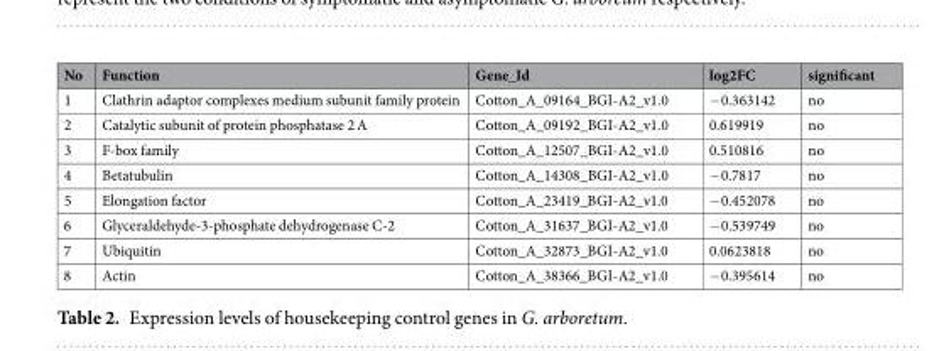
<table><thead><tr><td>No</td><td>Function</td><td>Gene_Id</td><td>log2FC</td><td>significant</td></tr></thead><tbody><tr><td>1</td><td>Clathrin adaptor complexes medium subunit family protein</td><td>Cotton_A_09164_BGI-A2_v1.0</td><td>−0.363142</td><td>no</td></tr><tr><td>2</td><td>Catalytic subunit of protein phosphatase 2 A</td><td>Cotton_A_09192_BGI-A2_v1.0</td><td>0.619919</td><td>no</td></tr><tr><td>3</td><td>F-box family</td><td>Cotton_A_12507_BGI-A2_v1.0</td><td>0.510816</td><td>no</td></tr><tr><td>4</td><td>Betatubulin</td><td>Cotton_A_14308_BGI-A2_v1.0</td><td>−0.7817</td><td>no</td></tr><tr><td>5</td><td>Elongation factor</td><td>Cotton_A_23419_BGI-A2_v1.0</td><td>−0.452078</td><td>no</td></tr><tr><td>6</td><td>Glyceraldehyde-3-phosphate dehydrogenase C-2</td><td>Cotton_A_31637_BGI-A2_v1.0</td><td>−0.539749</td><td>no</td></tr><tr><td>7</td><td>Ubiquitin</td><td>Cotton_A_32873_BGI-A2_v1.0</td><td>0.0623818</td><td>no</td></tr><tr><td>8</td><td>Actin</td><td>Cotton_A_38366_BGI-A2_v1.0</td><td>−0.395614</td><td>no</td></tr></tbody></table>